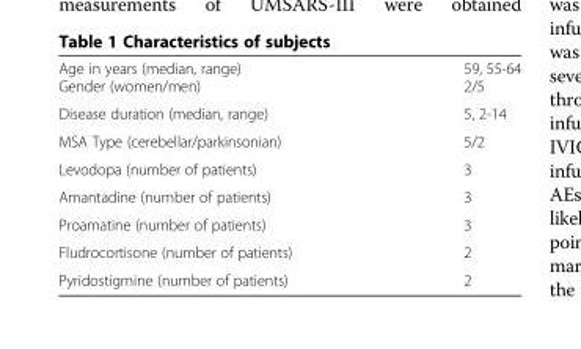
<table><tbody><tr><td>Age in years (median, range)</td><td>59, 55-64</td></tr><tr><td>Gender (women/men)</td><td>2/5</td></tr><tr><td>Disease duration (median, range)</td><td>5, 2-14</td></tr><tr><td>MSA Type (cerebellar/parkinsonian)</td><td>5/2</td></tr><tr><td>Levodopa (number of patients)</td><td>3</td></tr><tr><td>Amantadine (number of patients)</td><td>3</td></tr><tr><td>Proamatine (number of patients)</td><td>3</td></tr><tr><td>Fludrocortisone (number of patients)</td><td>2</td></tr><tr><td>Pyridostigmine (number of patients)</td><td>2</td></tr></tbody></table>